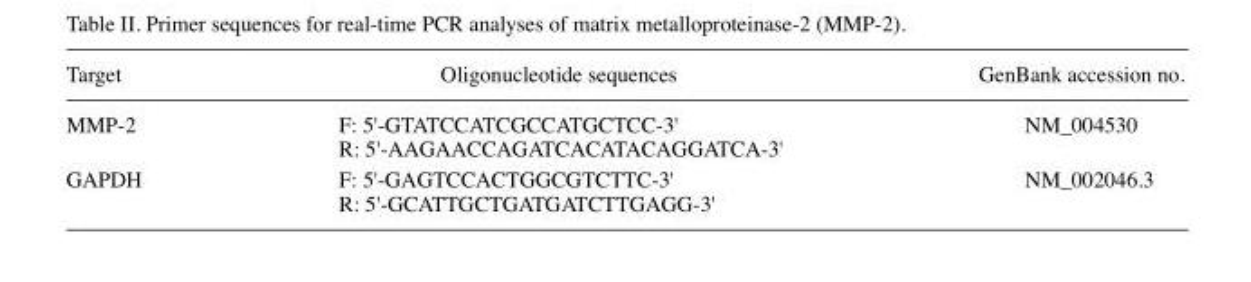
<table><thead><tr><td>Target</td><td>Oligonucleotide sequences</td><td>GenBank accession no.</td></tr></thead><tbody><tr><td rowspan="2">MMP-2</td><td>F: 5&#x27;-GTATCCATCGCCATGCTCC-3&#x27;</td><td>NM_004530</td></tr><tr><td>R: 5&#x27;-AAGAACCAGATCACATACAGGATCA-3&#x27;</td><td></td></tr><tr><td rowspan="2">GAPDH</td><td>F: 5&#x27;-GAGTCCACTGGCGTCTTC-3&#x27;</td><td>NM_002046.3</td></tr><tr><td>R: 5&#x27;-GCATTGCTGATGATCTTGAGG-3&#x27;</td><td></td></tr></tbody></table>